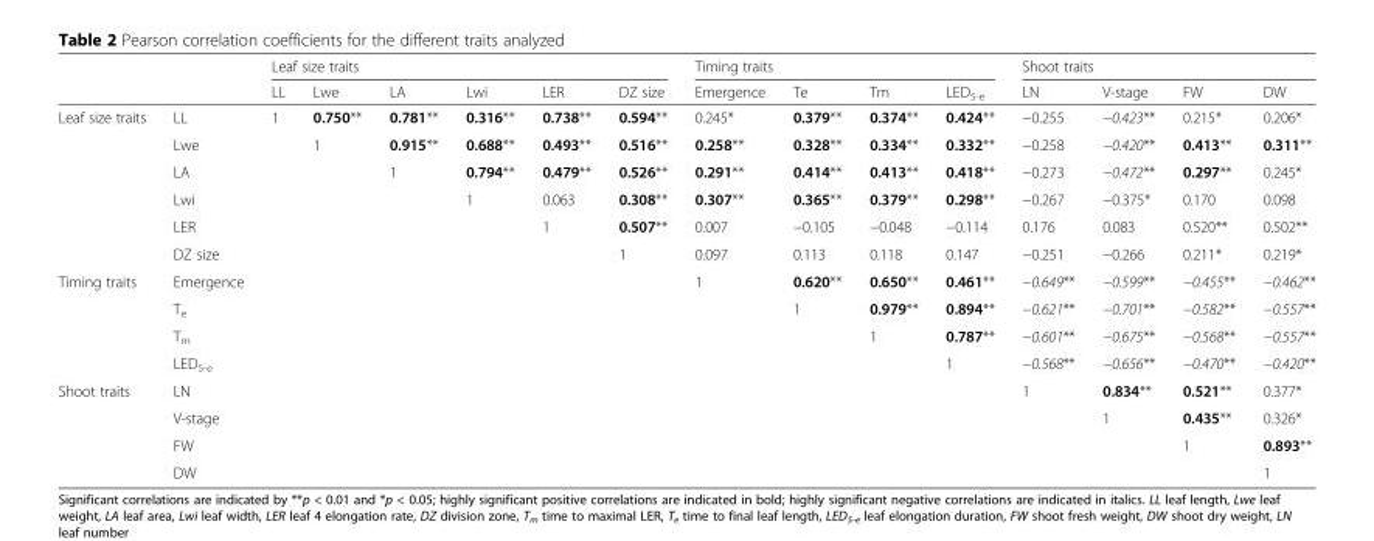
<table><thead><tr><td rowspan="2"></td><td rowspan="2"></td><td colspan="6">Leaf size traits</td><td colspan="4">Timing traits</td><td colspan="4">Shoot traits</td></tr><tr><td>LL</td><td>Lwe</td><td>LA</td><td>Lwi</td><td>LER</td><td>DZ size</td><td>Emergence</td><td>Te</td><td>Tm</td><td>LED<sub>5-e</sub></td><td>LN</td><td>V-stage</td><td>FW</td><td>DW</td></tr></thead><tbody><tr><td rowspan="6">Leaf size traits</td><td>LL</td><td>1</td><td>0.750**</td><td>0.781**</td><td>0.316**</td><td>0.738**</td><td>0.594**</td><td>0.245*</td><td>0.379**</td><td>0.374**</td><td>0.424**</td><td>−0.255</td><td>−0.423**</td><td>0.215*</td><td>0.206*</td></tr><tr><td>Lwe</td><td></td><td>1</td><td>0.915**</td><td>0.688**</td><td>0.493**</td><td>0.516**</td><td>0.258**</td><td>0.328**</td><td>0.334**</td><td>0.332**</td><td>−0.258</td><td>−0.420**</td><td>0.413**</td><td>0.311**</td></tr><tr><td>LA</td><td></td><td></td><td>1</td><td>0.794**</td><td>0.479**</td><td>0.526**</td><td>0.291**</td><td>0.414**</td><td>0.413**</td><td>0.418**</td><td>−0.273</td><td>−0.472**</td><td>0.297**</td><td>0.245*</td></tr><tr><td>Lwi</td><td></td><td></td><td></td><td>1</td><td>0.063</td><td>0.308**</td><td>0.307**</td><td>0.365**</td><td>0.379**</td><td>0.298**</td><td>−0.267</td><td>−0.375*</td><td>0.170</td><td>0.098</td></tr><tr><td>LER</td><td></td><td></td><td></td><td></td><td>1</td><td>0.507**</td><td>0.007</td><td>−0.105</td><td>−0.048</td><td>−0.114</td><td>0.176</td><td>0.083</td><td>0.520**</td><td>0.502**</td></tr><tr><td>DZ size</td><td></td><td></td><td></td><td></td><td></td><td>1</td><td>0.097</td><td>0.113</td><td>0.118</td><td>0.147</td><td>−0.251</td><td>−0.266</td><td>0.211*</td><td>0.219*</td></tr><tr><td rowspan="4">Timing traits</td><td>Emergence</td><td></td><td></td><td></td><td></td><td></td><td></td><td>1</td><td>0.620**</td><td>0.650**</td><td>0.461**</td><td>−0.649**</td><td>−0.599**</td><td>−0.455**</td><td>−0.462**</td></tr><tr><td>T<sub>e</sub></td><td></td><td></td><td></td><td></td><td></td><td></td><td></td><td>1</td><td>0.979**</td><td>0.894**</td><td>−0.621**</td><td>−0.701**</td><td>−0.582**</td><td>−0.557**</td></tr><tr><td>T<sub>m</sub></td><td></td><td></td><td></td><td></td><td></td><td></td><td></td><td></td><td>1</td><td>0.787**</td><td>−0.601**</td><td>−0.675**</td><td>−0.568**</td><td>−0.557**</td></tr><tr><td>LED<sub>5-e</sub></td><td></td><td></td><td></td><td></td><td></td><td></td><td></td><td></td><td></td><td>1</td><td>−0.568**</td><td>−0.656**</td><td>−0.470**</td><td>−0.420**</td></tr><tr><td rowspan="4">Shoot traits</td><td>LN</td><td></td><td></td><td></td><td></td><td></td><td></td><td></td><td></td><td></td><td></td><td>1</td><td>0.834**</td><td>0.521**</td><td>0.377*</td></tr><tr><td>V-stage</td><td></td><td></td><td></td><td></td><td></td><td></td><td></td><td></td><td></td><td></td><td></td><td>1</td><td>0.435**</td><td>0.326*</td></tr><tr><td>FW</td><td></td><td></td><td></td><td></td><td></td><td></td><td></td><td></td><td></td><td></td><td></td><td></td><td>1</td><td>0.893**</td></tr><tr><td>DW</td><td></td><td></td><td></td><td></td><td></td><td></td><td></td><td></td><td></td><td></td><td></td><td></td><td></td><td>1</td></tr></tbody></table>